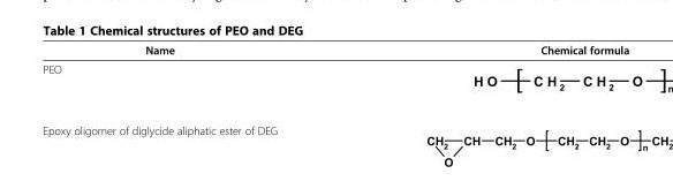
<table><thead><tr><td>Name</td><td>Chemical formula</td></tr></thead><tbody><tr><td colspan="2">PEO</td></tr><tr><td>Epoxy oligomer of diglycide aliphatic ester of DEG</td><td></td></tr></tbody></table>